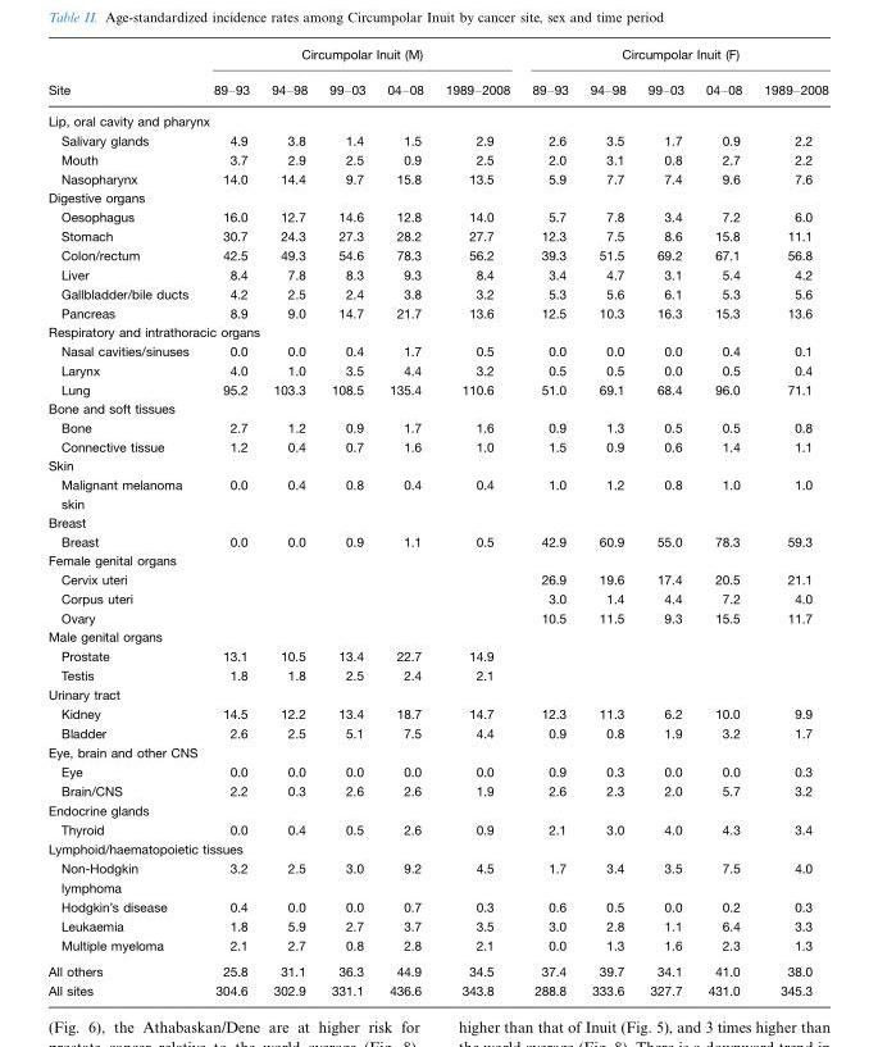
<table><thead><tr><td rowspan="2">Site</td><td colspan="5">Circumpolar Inuit (M)</td><td colspan="5">Circumpolar Inuit (F)</td></tr><tr><td>89–93</td><td>94–98</td><td>99–03</td><td>04–08</td><td>1989–2008</td><td>89–93</td><td>94–98</td><td>99–03</td><td>04–08</td><td>1989–2008</td></tr></thead><tbody><tr><td colspan="11">Lip, oral cavity and pharynx</td></tr><tr><td>Salivary glands</td><td>4.9</td><td>3.8</td><td>1.4</td><td>1.5</td><td>2.9</td><td>2.6</td><td>3.5</td><td>1.7</td><td>0.9</td><td>2.2</td></tr><tr><td>Mouth</td><td>3.7</td><td>2.9</td><td>2.5</td><td>0.9</td><td>2.5</td><td>2.0</td><td>3.1</td><td>0.8</td><td>2.7</td><td>2.2</td></tr><tr><td>Nasopharynx</td><td>14.0</td><td>14.4</td><td>9.7</td><td>15.8</td><td>13.5</td><td>5.9</td><td>7.7</td><td>7.4</td><td>9.6</td><td>7.6</td></tr><tr><td colspan="11">Digestive organs</td></tr><tr><td>Oesophagus</td><td>16.0</td><td>12.7</td><td>14.6</td><td>12.8</td><td>14.0</td><td>5.7</td><td>7.8</td><td>3.4</td><td>7.2</td><td>6.0</td></tr><tr><td>Stomach</td><td>30.7</td><td>24.3</td><td>27.3</td><td>28.2</td><td>27.7</td><td>12.3</td><td>7.5</td><td>8.6</td><td>15.8</td><td>11.1</td></tr><tr><td>Colon/rectum</td><td>42.5</td><td>49.3</td><td>54.6</td><td>78.3</td><td>56.2</td><td>39.3</td><td>51.5</td><td>69.2</td><td>67.1</td><td>56.8</td></tr><tr><td>Liver</td><td>8.4</td><td>7.8</td><td>8.3</td><td>9.3</td><td>8.4</td><td>3.4</td><td>4.7</td><td>3.1</td><td>5.4</td><td>4.2</td></tr><tr><td>Gallbladder/bile ducts</td><td>4.2</td><td>2.5</td><td>2.4</td><td>3.8</td><td>3.2</td><td>5.3</td><td>5.6</td><td>6.1</td><td>5.3</td><td>5.6</td></tr><tr><td>Pancreas</td><td>8.9</td><td>9.0</td><td>14.7</td><td>21.7</td><td>13.6</td><td>12.5</td><td>10.3</td><td>16.3</td><td>15.3</td><td>13.6</td></tr><tr><td colspan="11">Respiratory and intrathoracic organs</td></tr><tr><td>Nasal cavities/sinuses</td><td>0.0</td><td>0.0</td><td>0.4</td><td>1.7</td><td>0.5</td><td>0.0</td><td>0.0</td><td>0.0</td><td>0.4</td><td>0.1</td></tr><tr><td>Larynx</td><td>4.0</td><td>1.0</td><td>3.5</td><td>4.4</td><td>3.2</td><td>0.5</td><td>0.5</td><td>0.0</td><td>0.5</td><td>0.4</td></tr><tr><td>Lung</td><td>95.2</td><td>103.3</td><td>108.5</td><td>135.4</td><td>110.6</td><td>51.0</td><td>69.1</td><td>68.4</td><td>96.0</td><td>71.1</td></tr><tr><td colspan="11">Bone and soft tissues</td></tr><tr><td>Bone</td><td>2.7</td><td>1.2</td><td>0.9</td><td>1.7</td><td>1.6</td><td>0.9</td><td>1.3</td><td>0.5</td><td>0.5</td><td>0.8</td></tr><tr><td>Connective tissue</td><td>1.2</td><td>0.4</td><td>0.7</td><td>1.6</td><td>1.0</td><td>1.5</td><td>0.9</td><td>0.6</td><td>1.4</td><td>1.1</td></tr><tr><td colspan="11">Skin</td></tr><tr><td>Malignant melanoma skin</td><td>0.0</td><td>0.4</td><td>0.8</td><td>0.4</td><td>0.4</td><td>1.0</td><td>1.2</td><td>0.8</td><td>1.0</td><td>1.0</td></tr><tr><td colspan="11">Breast</td></tr><tr><td>Breast</td><td>0.0</td><td>0.0</td><td>0.9</td><td>1.1</td><td>0.5</td><td>42.9</td><td>60.9</td><td>55.0</td><td>78.3</td><td>59.3</td></tr><tr><td colspan="11">Female genital organs</td></tr><tr><td>Cervix uteri</td><td></td><td></td><td></td><td></td><td></td><td>26.9</td><td>19.6</td><td>17.4</td><td>20.5</td><td>21.1</td></tr><tr><td>Corpus uteri</td><td></td><td></td><td></td><td></td><td></td><td>3.0</td><td>1.4</td><td>4.4</td><td>7.2</td><td>4.0</td></tr><tr><td>Ovary</td><td></td><td></td><td></td><td></td><td></td><td>10.5</td><td>11.5</td><td>9.3</td><td>15.5</td><td>11.7</td></tr><tr><td colspan="11">Male genital organs</td></tr><tr><td>Prostate</td><td>13.1</td><td>10.5</td><td>13.4</td><td>22.7</td><td>14.9</td><td></td><td></td><td></td><td></td><td></td></tr><tr><td>Testis</td><td>1.8</td><td>1.8</td><td>2.5</td><td>2.4</td><td>2.1</td><td></td><td></td><td></td><td></td><td></td></tr><tr><td colspan="11">Urinary tract</td></tr><tr><td>Kidney</td><td>14.5</td><td>12.2</td><td>13.4</td><td>18.7</td><td>14.7</td><td>12.3</td><td>11.3</td><td>6.2</td><td>10.0</td><td>9.9</td></tr><tr><td>Bladder</td><td>2.6</td><td>2.5</td><td>5.1</td><td>7.5</td><td>4.4</td><td>0.9</td><td>0.8</td><td>1.9</td><td>3.2</td><td>1.7</td></tr><tr><td colspan="11">Eye, brain and other CNS</td></tr><tr><td>Eye</td><td>0.0</td><td>0.0</td><td>0.0</td><td>0.0</td><td>0.0</td><td>0.9</td><td>0.3</td><td>0.0</td><td>0.0</td><td>0.3</td></tr><tr><td>Brain/CNS</td><td>2.2</td><td>0.3</td><td>2.6</td><td>2.6</td><td>1.9</td><td>2.6</td><td>2.3</td><td>2.0</td><td>5.7</td><td>3.2</td></tr><tr><td colspan="11">Endocrine glands</td></tr><tr><td>Thyroid</td><td>0.0</td><td>0.4</td><td>0.5</td><td>2.6</td><td>0.9</td><td>2.1</td><td>3.0</td><td>4.0</td><td>4.3</td><td>3.4</td></tr><tr><td colspan="11">Lymphoid/haematopoietic tissues</td></tr><tr><td>Non-Hodgkin lymphoma</td><td>3.2</td><td>2.5</td><td>3.0</td><td>9.2</td><td>4.5</td><td>1.7</td><td>3.4</td><td>3.5</td><td>7.5</td><td>4.0</td></tr><tr><td>Hodgkin’s disease</td><td>0.4</td><td>0.0</td><td>0.0</td><td>0.7</td><td>0.3</td><td>0.6</td><td>0.5</td><td>0.0</td><td>0.2</td><td>0.3</td></tr><tr><td>Leukaemia</td><td>1.8</td><td>5.9</td><td>2.7</td><td>3.7</td><td>3.5</td><td>3.0</td><td>2.8</td><td>1.1</td><td>6.4</td><td>3.3</td></tr><tr><td>Multiple myeloma</td><td>2.1</td><td>2.7</td><td>0.8</td><td>2.8</td><td>2.1</td><td>0.0</td><td>1.3</td><td>1.6</td><td>2.3</td><td>1.3</td></tr><tr><td>All others</td><td>25.8</td><td>31.1</td><td>36.3</td><td>44.9</td><td>34.5</td><td>37.4</td><td>39.7</td><td>34.1</td><td>41.0</td><td>38.0</td></tr><tr><td>All sites</td><td>304.6</td><td>302.9</td><td>331.1</td><td>436.6</td><td>343.8</td><td>288.8</td><td>333.6</td><td>327.7</td><td>431.0</td><td>345.3</td></tr></tbody></table>